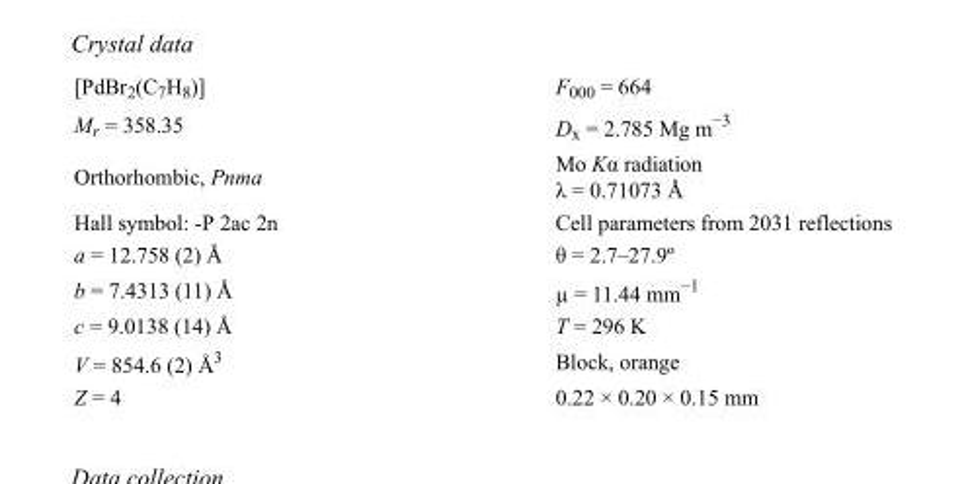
<table><tbody><tr><td>[PdBr<sub>2</sub>(C<sub>7</sub>H<sub>8</sub>)]</td><td>F000 = 664</td></tr><tr><td>M<sub>r</sub> = 358.35</td><td>D<sub>x</sub> = 2.785 Mg m<sup>−3</sup></td></tr><tr><td>Orthorhombic, Pnma</td><td>Mo Kα radiation λ = 0.71073 Å</td></tr><tr><td>Hall symbol: -P 2ac 2n</td><td>Cell parameters from 2031 reflections</td></tr><tr><td>a = 12.758 (2) Å</td><td>θ = 2.7–27.9º</td></tr><tr><td>b = 7.4313 (11) Å</td><td>µ = 11.44 mm<sup>−1</sup></td></tr><tr><td>c = 9.0138 (14) Å</td><td>T = 296 K</td></tr><tr><td>V = 854.6 (2) Å<sup>3</sup></td><td>Block, orange</td></tr><tr><td>Z = 4</td><td>0.22 × 0.20 × 0.15 mm</td></tr></tbody></table>